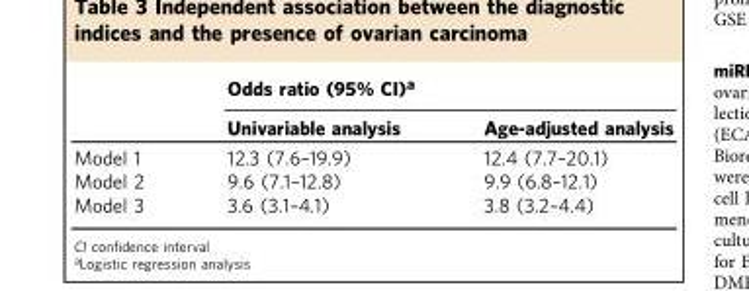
<table><thead><tr><td rowspan="2"></td><td colspan="2">Odds ratio (95% CI)<sup>a</sup></td></tr><tr><td>Univariable analysis</td><td>Age-adjusted analysis</td></tr></thead><tbody><tr><td>Model 1</td><td>12.3 (7.6–19.9)</td><td>12.4 (7.7–20.1)</td></tr><tr><td>Model 2</td><td>9.6 (7.1–12.8)</td><td>9.9 (6.8–12.1)</td></tr><tr><td>Model 3</td><td>3.6 (3.1–4.1)</td><td>3.8 (3.2–4.4)</td></tr></tbody></table>